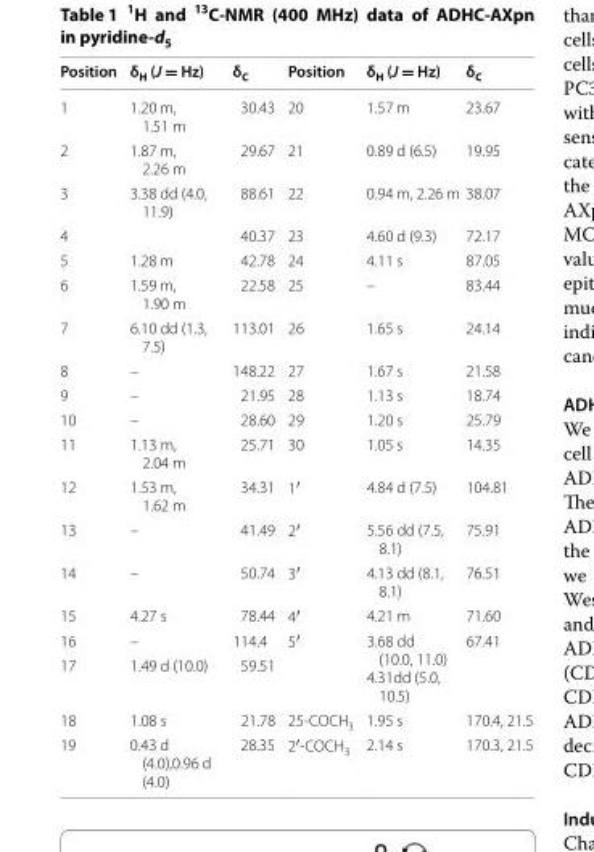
<table><thead><tr><td>Position</td><td>δ<sub>H</sub> (J = Hz)</td><td>δ<sub>C</sub></td><td>Position</td><td>δ<sub>H</sub> (J = Hz)</td><td>δ<sub>C</sub></td></tr></thead><tbody><tr><td>1</td><td>1.20 m, 1.51 m</td><td>30.43</td><td>20</td><td>1.57 m</td><td>23.67</td></tr><tr><td>2</td><td>1.87 m, 2.26 m</td><td>29.67</td><td>21</td><td>0.89 d (6.5)</td><td>19.95</td></tr><tr><td>3</td><td>3.38 dd (4.0, 11.9)</td><td>88.61</td><td>22</td><td>0.94 m, 2.26 m</td><td>38.07</td></tr><tr><td>4</td><td></td><td>40.37</td><td>23</td><td>4.60 d (9.3)</td><td>72.17</td></tr><tr><td>5</td><td>1.28 m</td><td>42.78</td><td>24</td><td>4.11 s</td><td>87.05</td></tr><tr><td>6</td><td>1.59 m, 1.90 m</td><td>22.58</td><td>25</td><td>–</td><td>83.44</td></tr><tr><td>7</td><td>6.10 dd (1.3, 7.5)</td><td>113.01</td><td>26</td><td>1.65 s</td><td>24.14</td></tr><tr><td>8</td><td>–</td><td>148.22</td><td>27</td><td>1.67 s</td><td>21.58</td></tr><tr><td>9</td><td>–</td><td>21.95</td><td>28</td><td>1.13 s</td><td>18.74</td></tr><tr><td>10</td><td>–</td><td>28.60</td><td>29</td><td>1.20 s</td><td>25.79</td></tr><tr><td>11</td><td>1.13 m, 2.04 m</td><td>25.71</td><td>30</td><td>1.05 s</td><td>14.35</td></tr><tr><td>12</td><td>1.53 m, 1.62 m</td><td>34.31</td><td>1′</td><td>4.84 d (7.5)</td><td>104.81</td></tr><tr><td>13</td><td>–</td><td>41.49</td><td>2′</td><td>5.56 dd (7.5, 8.1)</td><td>75.91</td></tr><tr><td>14</td><td>–</td><td>50.74</td><td>3′</td><td>4.13 dd (8.1, 8.1)</td><td>76.51</td></tr><tr><td>15</td><td>4.27 s</td><td>78.44</td><td>4′</td><td>4.21 m</td><td>71.60</td></tr><tr><td>16</td><td>–</td><td>114.4</td><td rowspan="2">5′</td><td rowspan="2">3.68 dd (10.0, 11.0) 4.31dd (5.0, 10.5)</td><td rowspan="2">67.41</td></tr><tr><td>17</td><td>1.49 d (10.0)</td><td>59.51</td></tr><tr><td>18</td><td>1.08 s</td><td>21.78</td><td>25‑COCH<sub>3</sub></td><td>1.95 s</td><td>170.4, 21.5</td></tr><tr><td>19</td><td>0.43 d (4.0),0.96 d (4.0)</td><td>28.35</td><td>2′‑COCH<sub>3</sub></td><td>2.14 s</td><td>170.3, 21.5</td></tr></tbody></table>